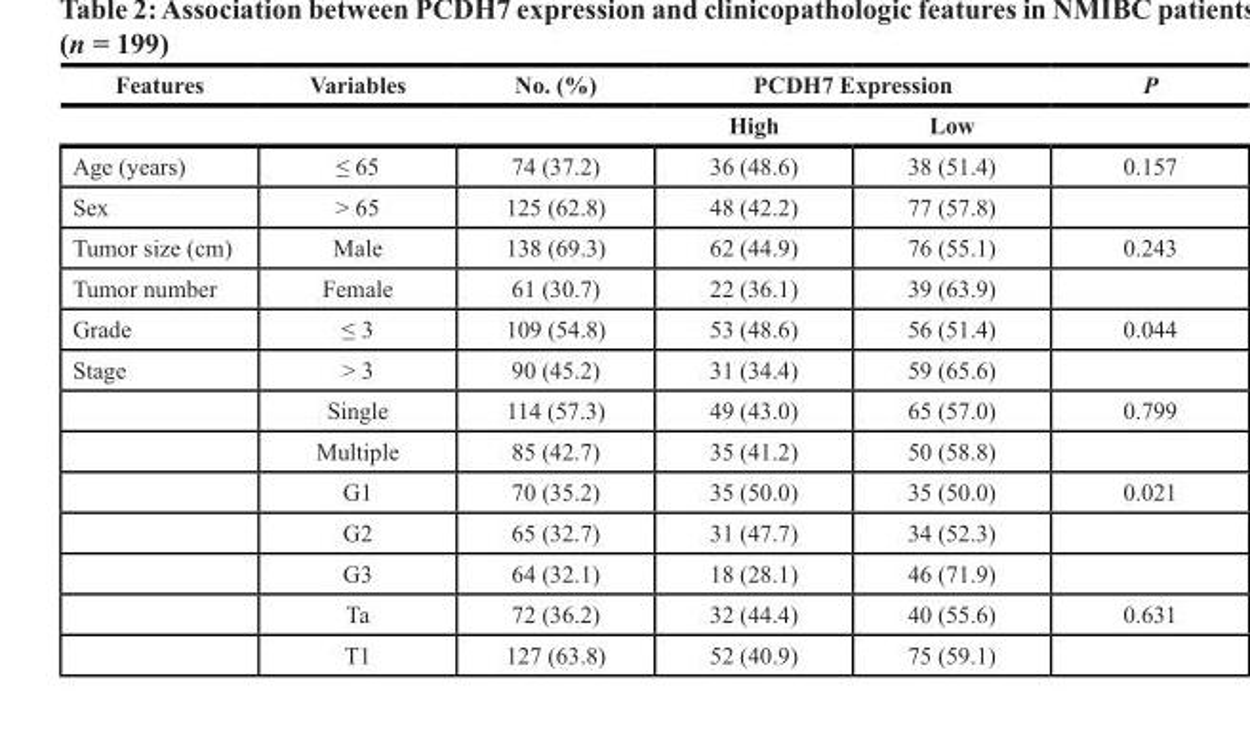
<table><thead><tr><td rowspan="2">Features</td><td rowspan="2">Variables</td><td rowspan="2">No. (%)</td><td colspan="2">PCDH7 Expression</td><td rowspan="2">P</td></tr><tr><td>High</td><td>Low</td></tr></thead><tbody><tr><td>Age (years)</td><td>≤ 65</td><td>74 (37.2)</td><td>36 (48.6)</td><td>38 (51.4)</td><td>0.157</td></tr><tr><td>Sex</td><td>&gt; 65</td><td>125 (62.8)</td><td>48 (42.2)</td><td>77 (57.8)</td><td></td></tr><tr><td>Tumor size (cm)</td><td>Male</td><td>138 (69.3)</td><td>62 (44.9)</td><td>76 (55.1)</td><td>0.243</td></tr><tr><td>Tumor number</td><td>Female</td><td>61 (30.7)</td><td>22 (36.1)</td><td>39 (63.9)</td><td></td></tr><tr><td>Grade</td><td>≤ 3</td><td>109 (54.8)</td><td>53 (48.6)</td><td>56 (51.4)</td><td>0.044</td></tr><tr><td rowspan="8">Stage</td><td>&gt; 3</td><td>90 (45.2)</td><td>31 (34.4)</td><td>59 (65.6)</td><td></td></tr><tr><td>Single</td><td>114 (57.3)</td><td>49 (43.0)</td><td>65 (57.0)</td><td>0.799</td></tr><tr><td>Multiple</td><td>85 (42.7)</td><td>35 (41.2)</td><td>50 (58.8)</td><td></td></tr><tr><td>G1</td><td>70 (35.2)</td><td>35 (50.0)</td><td>35 (50.0)</td><td>0.021</td></tr><tr><td>G2</td><td>65 (32.7)</td><td>31 (47.7)</td><td>34 (52.3)</td><td></td></tr><tr><td>G3</td><td>64 (32.1)</td><td>18 (28.1)</td><td>46 (71.9)</td><td></td></tr><tr><td>Ta</td><td>72 (36.2)</td><td>32 (44.4)</td><td>40 (55.6)</td><td>0.631</td></tr><tr><td>T1</td><td>127 (63.8)</td><td>52 (40.9)</td><td>75 (59.1)</td><td></td></tr></tbody></table>